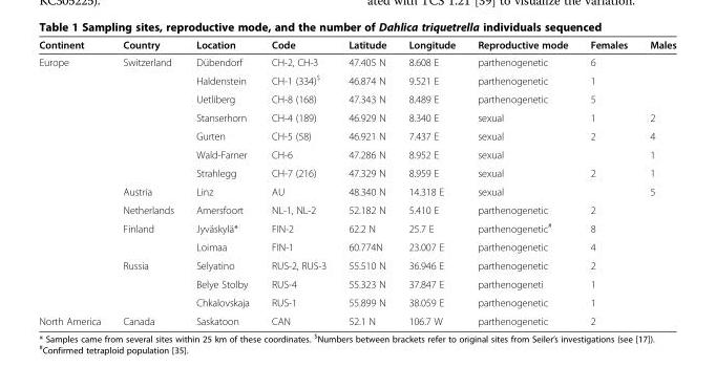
<table><thead><tr><td>Continent</td><td>Country</td><td>Location</td><td>Code</td><td>Latitude</td><td>Longitude</td><td>Reproductive mode</td><td>Females</td><td>Males</td></tr></thead><tbody><tr><td rowspan="14">Europe</td><td>Switzerland</td><td>Dübendorf</td><td>CH-2, CH-3</td><td>47.405 N</td><td>8.608 E</td><td>parthenogenetic</td><td>6</td><td></td></tr><tr><td></td><td>Haldenstein</td><td>CH-1 (334)<sup>$</sup></td><td>46.874 N</td><td>9.521 E</td><td>parthenogenetic</td><td>1</td><td></td></tr><tr><td></td><td>Uetliberg</td><td>CH-8 (168)</td><td>47.343 N</td><td>8.489 E</td><td>parthenogenetic</td><td>5</td><td></td></tr><tr><td></td><td>Stanserhorn</td><td>CH-4 (189)</td><td>46.929 N</td><td>8.340 E</td><td>sexual</td><td>1</td><td>2</td></tr><tr><td></td><td>Gurten</td><td>CH-5 (58)</td><td>46.921 N</td><td>7.437 E</td><td>sexual</td><td>2</td><td>4</td></tr><tr><td></td><td>Wald-Farner</td><td>CH-6</td><td>47.286 N</td><td>8.952 E</td><td>sexual</td><td></td><td>1</td></tr><tr><td></td><td>Strahlegg</td><td>CH-7 (216)</td><td>47.329 N</td><td>8.959 E</td><td>sexual</td><td>2</td><td>1</td></tr><tr><td>Austria</td><td>Linz</td><td>AU</td><td>48.340 N</td><td>14.318 E</td><td>sexual</td><td></td><td>5</td></tr><tr><td>Netherlands</td><td>Amersfoort</td><td>NL-1, NL-2</td><td>52.182 N</td><td>5.410 E</td><td>parthenogenetic</td><td>2</td><td></td></tr><tr><td>Finland</td><td>Jyväskylä*</td><td>FIN-2</td><td>62.2 N</td><td>25.7 E</td><td>parthenogenetic<sup>#</sup></td><td>8</td><td></td></tr><tr><td></td><td>Loimaa</td><td>FIN-1</td><td>60.774N</td><td>23.007 E</td><td>parthenogenetic</td><td>4</td><td></td></tr><tr><td>Russia</td><td>Selyatino</td><td>RUS-2, RUS-3</td><td>55.510 N</td><td>36.946 E</td><td>parthenogenetic</td><td>2</td><td></td></tr><tr><td></td><td>Belye Stolby</td><td>RUS-4</td><td>55.323 N</td><td>37.847 E</td><td>parthenogeneti</td><td>1</td><td></td></tr><tr><td></td><td>Chkalovskaja</td><td>RUS-1</td><td>55.899 N</td><td>38.059 E</td><td>parthenogenetic</td><td>1</td><td></td></tr><tr><td>North America</td><td>Canada</td><td>Saskatoon</td><td>CAN</td><td>52.1 N</td><td>106.7 W</td><td>parthenogenetic</td><td>2</td><td></td></tr></tbody></table>